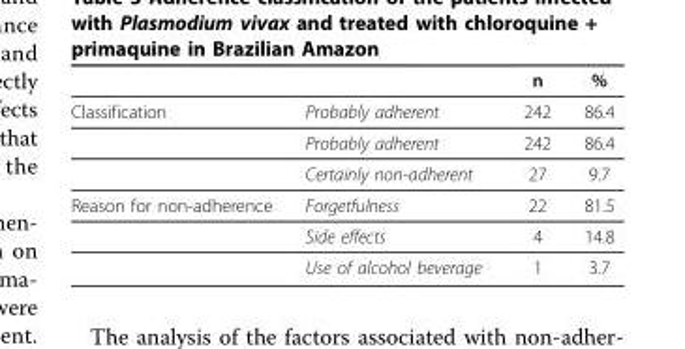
<table><thead><tr><td></td><td></td><td>n</td><td>%</td></tr></thead><tbody><tr><td rowspan="3">Classification</td><td>Probably adherent</td><td>242</td><td>86.4</td></tr><tr><td>Probably adherent</td><td>242</td><td>86.4</td></tr><tr><td>Certainly non-adherent</td><td>27</td><td>9.7</td></tr><tr><td rowspan="3">Reason for non-adherence</td><td>Forgetfulness</td><td>22</td><td>81.5</td></tr><tr><td>Side effects</td><td>4</td><td>14.8</td></tr><tr><td>Use of alcohol beverage</td><td>1</td><td>3.7</td></tr></tbody></table>